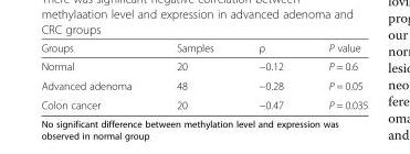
<table><thead><tr><td>Groups</td><td>Samples</td><td>ρ</td><td>P value</td></tr></thead><tbody><tr><td>Normal</td><td>20</td><td>−0.12</td><td>P = 0.6</td></tr><tr><td>Advanced adenoma</td><td>48</td><td>−0.28</td><td>P = 0.05</td></tr><tr><td>Colon cancer</td><td>20</td><td>−0.47</td><td>P = 0.035</td></tr></tbody></table>